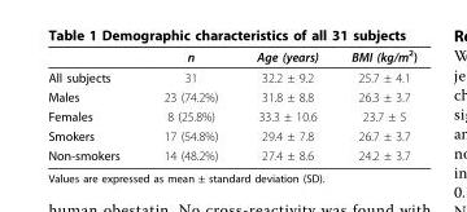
<table><thead><tr><td></td><td>n</td><td>Age (years)</td><td>BMI (kg/m<sup>2</sup>)</td></tr></thead><tbody><tr><td>All subjects</td><td>31</td><td>32.2 ± 9.2</td><td>25.7 ± 4.1</td></tr><tr><td>Males</td><td>23 (74.2%)</td><td>31.8 ± 8.8</td><td>26.3 ± 3.7</td></tr><tr><td>Females</td><td>8 (25.8%)</td><td>33.3 ± 10.6</td><td>23.7 ± 5</td></tr><tr><td>Smokers</td><td>17 (54.8%)</td><td>29.4 ± 7.8</td><td>26.7 ± 3.7</td></tr><tr><td>Non-smokers</td><td>14 (48.2%)</td><td>27.4 ± 8.6</td><td>24.2 ± 3.7</td></tr></tbody></table>